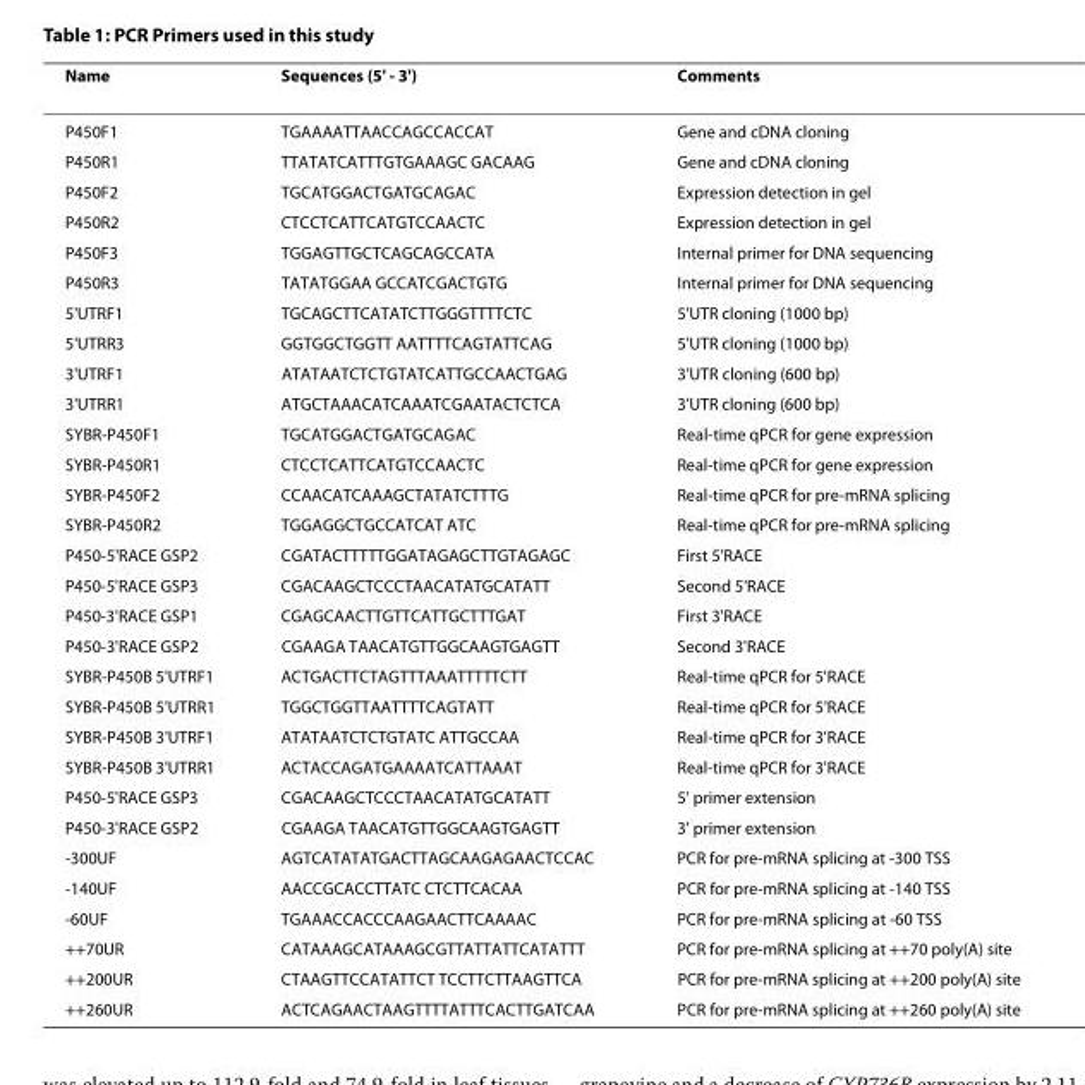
<table><thead><tr><td>Name</td><td>Sequences (5&#x27; - 3&#x27;)</td><td>Comments</td></tr></thead><tbody><tr><td>P450F1</td><td>TGAAAATTAACCAGCCACCAT</td><td>Gene and cDNA cloning</td></tr><tr><td>P450R1</td><td>TTATATCATTTGTGAAAGC GACAAG</td><td>Gene and cDNA cloning</td></tr><tr><td>P450F2</td><td>TGCATGGACTGATGCAGAC</td><td>Expression detection in gel</td></tr><tr><td>P450R2</td><td>CTCCTCATTCATGTCCAACTC</td><td>Expression detection in gel</td></tr><tr><td>P450F3</td><td>TGGAGTTGCTCAGCAGCCATA</td><td>Internal primer for DNA sequencing</td></tr><tr><td>P450R3</td><td>TATATGGAA GCCATCGACTGTG</td><td>Internal primer for DNA sequencing</td></tr><tr><td>5&#x27;UTRF1</td><td>TGCAGCTTCATATCTTGGGTTTTCTC</td><td>5&#x27;UTR cloning (1000 bp)</td></tr><tr><td>5&#x27;UTRR3</td><td>GGTGGCTGGTT AATTTTCAGTATTCAG</td><td>5&#x27;UTR cloning (1000 bp)</td></tr><tr><td>3&#x27;UTRF1</td><td>ATATAATCTCTGTATCATTGCCAACTGAG</td><td>3&#x27;UTR cloning (600 bp)</td></tr><tr><td>3&#x27;UTRR1</td><td>ATGCTAAACATCAAATCGAATACTCTCA</td><td>3&#x27;UTR cloning (600 bp)</td></tr><tr><td>SYBR-P450F1</td><td>TGCATGGACTGATGCAGAC</td><td>Real-time qPCR for gene expression</td></tr><tr><td>SYBR-P450R1</td><td>CTCCTCATTCATGTCCAACTC</td><td>Real-time qPCR for gene expression</td></tr><tr><td>SYBR-P450F2</td><td>CCAACATCAAAGCTATATCTTTG</td><td>Real-time qPCR for pre-mRNA splicing</td></tr><tr><td>SYBR-P450R2</td><td>TGGAGGCTGCCATCAT ATC</td><td>Real-time qPCR for pre-mRNA splicing</td></tr><tr><td>P450-5&#x27;RACE GSP2</td><td>CGATACTTTTTGGATAGAGCTTGTAGAGC</td><td>First 5&#x27;RACE</td></tr><tr><td>P450-5&#x27;RACE GSP3</td><td>CGACAAGCTCCCTAACATATGCATATT</td><td>Second 5&#x27;RACE</td></tr><tr><td>P450-3&#x27;RACE GSP1</td><td>CGAGCAACTTGTTCATTGCTTTGAT</td><td>First 3&#x27;RACE</td></tr><tr><td>P450-3&#x27;RACE GSP2</td><td>CGAAGA TAACATGTTGGCAAGTGAGTT</td><td>Second 3&#x27;RACE</td></tr><tr><td>SYBR-P450B 5&#x27;UTRF1</td><td>ACTGACTTCTAGTTTAAATTTTTCTT</td><td>Real-time qPCR for 5&#x27;RACE</td></tr><tr><td>SYBR-P450B 5&#x27;UTRR1</td><td>TGGCTGGTTAATTTTCAGTATT</td><td>Real-time qPCR for 5&#x27;RACE</td></tr><tr><td>SYBR-P450B 3&#x27;UTRF1</td><td>ATATAATCTCTGTATC ATTGCCAA</td><td>Real-time qPCR for 3&#x27;RACE</td></tr><tr><td>SYBR-P450B 3&#x27;UTRR1</td><td>ACTACCAGATGAAAATCATTAAAT</td><td>Real-time qPCR for 3&#x27;RACE</td></tr><tr><td>P450-5&#x27;RACE GSP3</td><td>CGACAAGCTCCCTAACATATGCATATT</td><td>5&#x27; primer extension</td></tr><tr><td>P450-3&#x27;RACE GSP2</td><td>CGAAGA TAACATGTTGGCAAGTGAGTT</td><td>3&#x27; primer extension</td></tr><tr><td>-300UF</td><td>AGTCATATATGACTTAGCAAGAGAACTCCAC</td><td>PCR for pre-mRNA splicing at -300 TSS</td></tr><tr><td>-140UF</td><td>AACCGCACCTTATC CTCTTCACAA</td><td>PCR for pre-mRNA splicing at -140 TSS</td></tr><tr><td>-60UF</td><td>TGAAACCACCCAAGAACTTCAAAAC</td><td>PCR for pre-mRNA splicing at -60 TSS</td></tr><tr><td>++70UR</td><td>CATAAAGCATAAAGCGTTATTATTCATATTT</td><td>PCR for pre-mRNA splicing at ++70 poly(A) site</td></tr><tr><td>++200UR</td><td>CTAAGTTCCATATTCT TCCTTCTTAAGTTCA</td><td>PCR for pre-mRNA splicing at ++200 poly(A) site</td></tr><tr><td>++260UR</td><td>ACTCAGAACTAAGTTTTATTTCACTTGATCAA</td><td>PCR for pre-mRNA splicing at ++260 poly(A) site</td></tr></tbody></table>